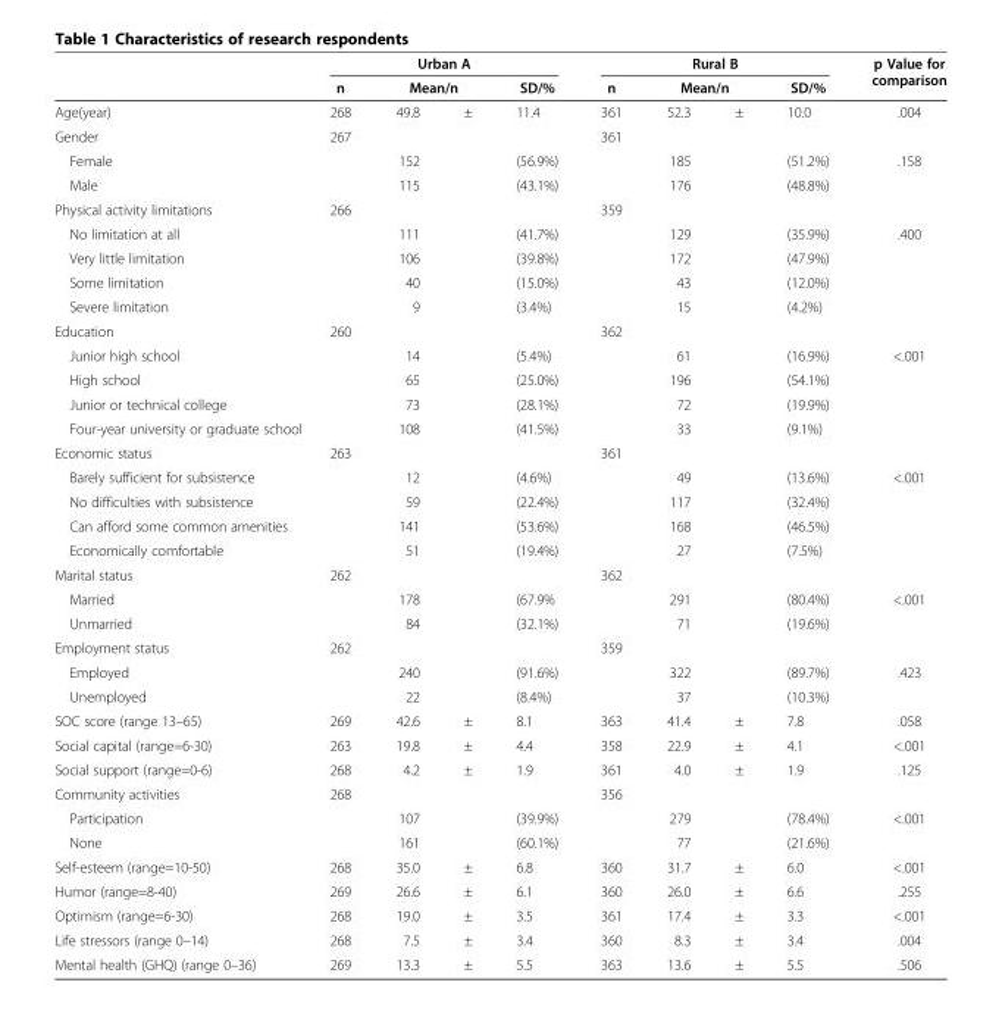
<table><thead><tr><td rowspan="3">Age(year)</td><td colspan="4">Urban A</td><td colspan="4">Rural B</td><td rowspan="3">p Value for comparison .004</td></tr><tr><td rowspan="2">n 268</td><td colspan="2">Mean/n</td><td rowspan="2">SD/% 11.4</td><td rowspan="2">n 361</td><td colspan="2">Mean/n</td><td rowspan="2">SD/% 10.0</td></tr><tr><td>49.8</td><td>±</td><td>52.3</td><td>±</td></tr></thead><tbody><tr><td>Gender</td><td>267</td><td></td><td></td><td></td><td>361</td><td></td><td></td><td></td><td></td></tr><tr><td>Female</td><td></td><td>152</td><td></td><td>(56.9%)</td><td></td><td>185</td><td></td><td>(51.2%)</td><td>.158</td></tr><tr><td>Male</td><td></td><td>115</td><td></td><td>(43.1%)</td><td></td><td>176</td><td></td><td>(48.8%)</td><td></td></tr><tr><td>Physical activity limitations</td><td>266</td><td></td><td></td><td></td><td>359</td><td></td><td></td><td></td><td></td></tr><tr><td>No limitation at all</td><td></td><td>111</td><td></td><td>(41.7%)</td><td></td><td>129</td><td></td><td>(35.9%)</td><td>.400</td></tr><tr><td>Very little limitation</td><td></td><td>106</td><td></td><td>(39.8%)</td><td></td><td>172</td><td></td><td>(47.9%)</td><td></td></tr><tr><td>Some limitation</td><td></td><td>40</td><td></td><td>(15.0%)</td><td></td><td>43</td><td></td><td>(12.0%)</td><td></td></tr><tr><td colspan="2">Severe limitation</td><td>9</td><td></td><td>(3.4%)</td><td></td><td>15</td><td></td><td>(4.2%)</td><td></td></tr><tr><td>Education</td><td>260</td><td></td><td></td><td></td><td>362</td><td></td><td></td><td></td><td></td></tr><tr><td>Junior high school</td><td></td><td>14</td><td></td><td>(5.4%)</td><td></td><td>61</td><td></td><td>(16.9%)</td><td>&lt;.001</td></tr><tr><td>High school</td><td></td><td>65</td><td></td><td>(25.0%)</td><td></td><td>196</td><td></td><td>(54.1%)</td><td></td></tr><tr><td>Junior or technical college</td><td></td><td>73</td><td></td><td>(28.1%)</td><td></td><td>72</td><td></td><td>(19.9%)</td><td></td></tr><tr><td colspan="2">Four-year university or graduate school</td><td>108</td><td></td><td>(41.5%)</td><td></td><td>33</td><td></td><td>(9.1%)</td><td></td></tr><tr><td>Economic status</td><td>263</td><td></td><td></td><td></td><td>361</td><td></td><td></td><td></td><td></td></tr><tr><td>Barely sufficient for subsistence</td><td></td><td>12</td><td></td><td>(4.6%)</td><td></td><td>49</td><td></td><td>(13.6%)</td><td>&lt;.001</td></tr><tr><td>No difficulties with subsistence</td><td></td><td>59</td><td></td><td>(22.4%)</td><td></td><td>117</td><td></td><td>(32.4%)</td><td></td></tr><tr><td>Can afford some common amenities</td><td></td><td>141</td><td></td><td>(53.6%)</td><td></td><td>168</td><td></td><td>(46.5%)</td><td></td></tr><tr><td>Economically comfortable</td><td></td><td>51</td><td></td><td>(19.4%)</td><td></td><td>27</td><td></td><td>(7.5%)</td><td></td></tr><tr><td>Marital status</td><td>262</td><td></td><td></td><td></td><td>362</td><td></td><td></td><td></td><td></td></tr><tr><td>Married</td><td></td><td>178</td><td></td><td>(67.9%</td><td></td><td>291</td><td></td><td>(80.4%)</td><td>&lt;.001</td></tr><tr><td>Unmarried</td><td></td><td>84</td><td></td><td>(32.1%)</td><td></td><td>71</td><td></td><td>(19.6%)</td><td></td></tr><tr><td>Employment status</td><td>262</td><td></td><td></td><td></td><td>359</td><td></td><td></td><td></td><td></td></tr><tr><td>Employed</td><td></td><td>240</td><td></td><td>(91.6%)</td><td></td><td>322</td><td></td><td>(89.7%)</td><td>.423</td></tr><tr><td>Unemployed</td><td></td><td>22</td><td></td><td>(8.4%)</td><td></td><td>37</td><td></td><td>(10.3%)</td><td></td></tr><tr><td>SOC score (range 13–65)</td><td>269</td><td>42.6</td><td>±</td><td>8.1</td><td>363</td><td>41.4</td><td>±</td><td>7.8</td><td>.058</td></tr><tr><td>Social capital (range=6-30)</td><td>263</td><td>19.8</td><td>±</td><td>4.4</td><td>358</td><td>22.9</td><td>±</td><td>4.1</td><td>&lt;.001</td></tr><tr><td>Social support (range=0-6)</td><td>268</td><td>4.2</td><td>±</td><td>1.9</td><td>361</td><td>4.0</td><td>±</td><td>1.9</td><td>.125</td></tr><tr><td>Community activities</td><td>268</td><td></td><td></td><td></td><td>356</td><td></td><td></td><td></td><td></td></tr><tr><td>Participation</td><td></td><td>107</td><td></td><td>(39.9%)</td><td></td><td>279</td><td></td><td>(78.4%)</td><td>&lt;.001</td></tr><tr><td>None</td><td></td><td>161</td><td></td><td>(60.1%)</td><td></td><td>77</td><td></td><td>(21.6%)</td><td></td></tr><tr><td>Self-esteem (range=10-50)</td><td>268</td><td>35.0</td><td>±</td><td>6.8</td><td>360</td><td>31.7</td><td>±</td><td>6.0</td><td>&lt;.001</td></tr><tr><td>Humor (range=8-40)</td><td>269</td><td>26.6</td><td>±</td><td>6.1</td><td>360</td><td>26.0</td><td>±</td><td>6.6</td><td>.255</td></tr><tr><td>Optimism (range=6-30)</td><td>268</td><td>19.0</td><td>±</td><td>3.5</td><td>361</td><td>17.4</td><td>±</td><td>3.3</td><td>&lt;.001</td></tr><tr><td>Life stressors (range 0–14)</td><td>268</td><td>7.5</td><td>±</td><td>3.4</td><td>360</td><td>8.3</td><td>±</td><td>3.4</td><td>.004</td></tr><tr><td>Mental health (GHQ) (range 0–36)</td><td>269</td><td>13.3</td><td>±</td><td>5.5</td><td>363</td><td>13.6</td><td>±</td><td>5.5</td><td>.506</td></tr></tbody></table>